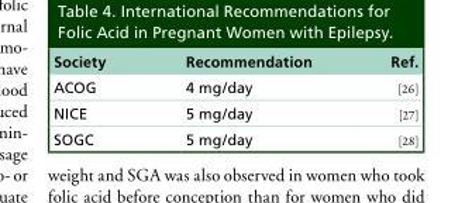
<table><thead><tr><td>Society</td><td>Recommendation</td><td>Ref.</td></tr></thead><tbody><tr><td>ACOG</td><td>4 mg/day</td><td>[26]</td></tr><tr><td>NICE</td><td>5 mg/day</td><td>[27]</td></tr><tr><td>SOGC</td><td>5 mg/day</td><td>[28]</td></tr></tbody></table>